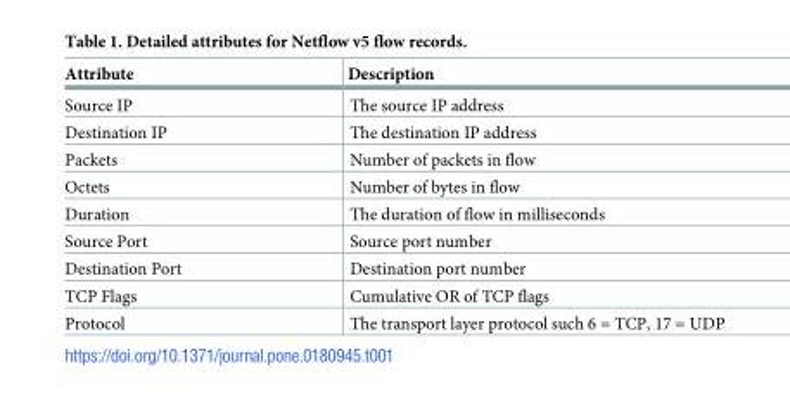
<table><thead><tr><td>Attribute</td><td>Description</td></tr></thead><tbody><tr><td>Source IP</td><td>The source IP address</td></tr><tr><td>Destination IP</td><td>The destination IP address</td></tr><tr><td>Packets</td><td>Number of packets in flow</td></tr><tr><td>Octets</td><td>Number of bytes in flow</td></tr><tr><td>Duration</td><td>The duration of flow in milliseconds</td></tr><tr><td>Source Port</td><td>Source port number</td></tr><tr><td>Destination Port</td><td>Destination port number</td></tr><tr><td>TCP Flags</td><td>Cumulative OR of TCP flags</td></tr><tr><td>Protocol</td><td>The transport layer protocol such 6 = TCP, 17 = UDP</td></tr></tbody></table>